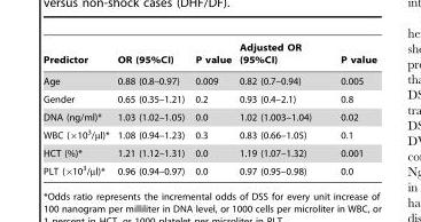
<table><thead><tr><td>Predictor</td><td>OR (95%CI)</td><td>P value</td><td>Adjusted OR (95%CI)</td><td>P value</td></tr></thead><tbody><tr><td>Age</td><td>0.88 (0.8–0.97)</td><td>0.009</td><td>0.82 (0.7–0.94)</td><td>0.005</td></tr><tr><td>Gender</td><td>0.65 (0.35–1.21)</td><td>0.2</td><td>0.93 (0.4–2.1)</td><td>0.8</td></tr><tr><td>DNA (ng/ml)*</td><td>1.03 (1.02–1.05)</td><td>0.0</td><td>1.02 (1.003–1.04)</td><td>0.02</td></tr><tr><td>WBC (×10<sup>3</sup>/µl)*</td><td>1.08 (0.94–1.23)</td><td>0.3</td><td>0.83 (0.66–1.05)</td><td>0.1</td></tr><tr><td>HCT (%)*</td><td>1.21 (1.12–1.31)</td><td>0.0</td><td>1.19 (1.07–1.32)</td><td>0.001</td></tr><tr><td>PLT (×10<sup>3</sup>/µl)*</td><td>0.96 (0.94–0.97)</td><td>0.0</td><td>0.97 (0.95–0.98)</td><td>0.0</td></tr></tbody></table>